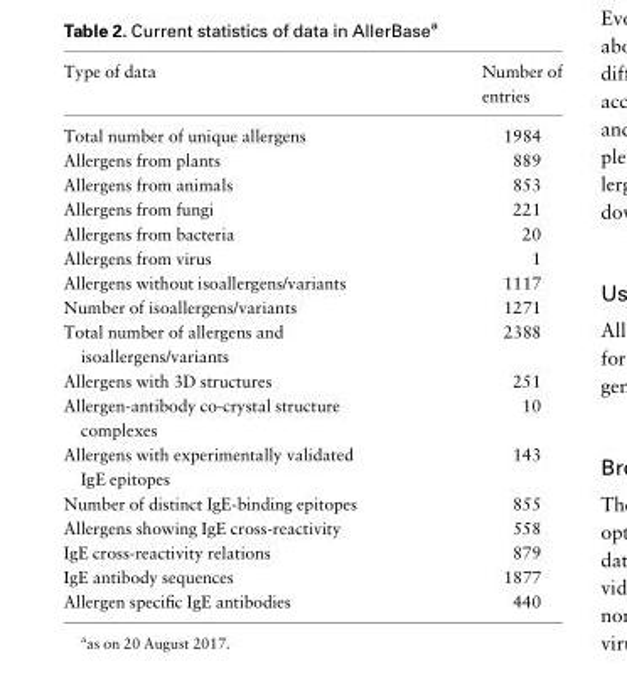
<table><thead><tr><td>Type of data</td><td>Number of entries</td></tr></thead><tbody><tr><td>Total number of unique allergens</td><td>1984</td></tr><tr><td>Allergens from plants</td><td>889</td></tr><tr><td>Allergens from animals</td><td>853</td></tr><tr><td>Allergens from fungi</td><td>221</td></tr><tr><td>Allergens from bacteria</td><td>20</td></tr><tr><td>Allergens from virus</td><td>1</td></tr><tr><td>Allergens without isoallergens/variants</td><td>1117</td></tr><tr><td>Number of isoallergens/variants</td><td>1271</td></tr><tr><td>Total number of allergens and isoallergens/variants</td><td>2388</td></tr><tr><td>Allergens with 3D structures</td><td>251</td></tr><tr><td>Allergen-antibody co-crystal structure complexes</td><td>10</td></tr><tr><td>Allergens with experimentally validated IgE epitopes</td><td>143</td></tr><tr><td>Number of distinct IgE-binding epitopes</td><td>855</td></tr><tr><td>Allergens showing IgE cross-reactivity</td><td>558</td></tr><tr><td>IgE cross-reactivity relations</td><td>879</td></tr><tr><td>IgE antibody sequences</td><td>1877</td></tr><tr><td>Allergen specific IgE antibodies</td><td>440</td></tr></tbody></table>